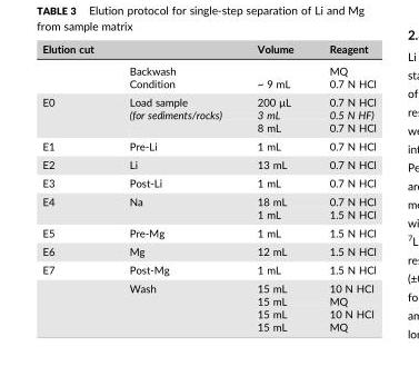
<table><thead><tr><td>Elution cut</td><td></td><td>Volume</td><td>Reagent</td></tr></thead><tbody><tr><td rowspan="2"></td><td>Backwash</td><td></td><td>MQ</td></tr><tr><td>Condition</td><td>~ 9 mL</td><td>0.7 N HCl</td></tr><tr><td rowspan="3">E0</td><td>Load sample</td><td>200 μL</td><td>0.7 N HCl</td></tr><tr><td>(for sediments/rocks)</td><td>3 mL</td><td>0.5 N HF)</td></tr><tr><td></td><td>8 mL</td><td>0.7 N HCl</td></tr><tr><td>E1</td><td>Pre‐Li</td><td>1 mL</td><td>0.7 N HCl</td></tr><tr><td>E2</td><td>Li</td><td>13 mL</td><td>0.7 N HCl</td></tr><tr><td>E3</td><td>Post‐Li</td><td>1 mL</td><td>0.7 N HCl</td></tr><tr><td rowspan="2">E4</td><td rowspan="2">Na</td><td>18 mL</td><td>0.7 N HCl</td></tr><tr><td>1 mL</td><td>1.5 N HCl</td></tr><tr><td>E5</td><td>Pre‐Mg</td><td>1 mL</td><td>1.5 N HCl</td></tr><tr><td>E6</td><td>Mg</td><td>12 mL</td><td>1.5 N HCl</td></tr><tr><td rowspan="5">E7</td><td>Post‐Mg</td><td>1 mL</td><td>1.5 N HCl</td></tr><tr><td rowspan="4">Wash</td><td>15 mL</td><td>10 N HCl</td></tr><tr><td>15 mL</td><td>MQ</td></tr><tr><td>15 mL</td><td>10 N HCl</td></tr><tr><td>15 mL</td><td>MQ</td></tr></tbody></table>